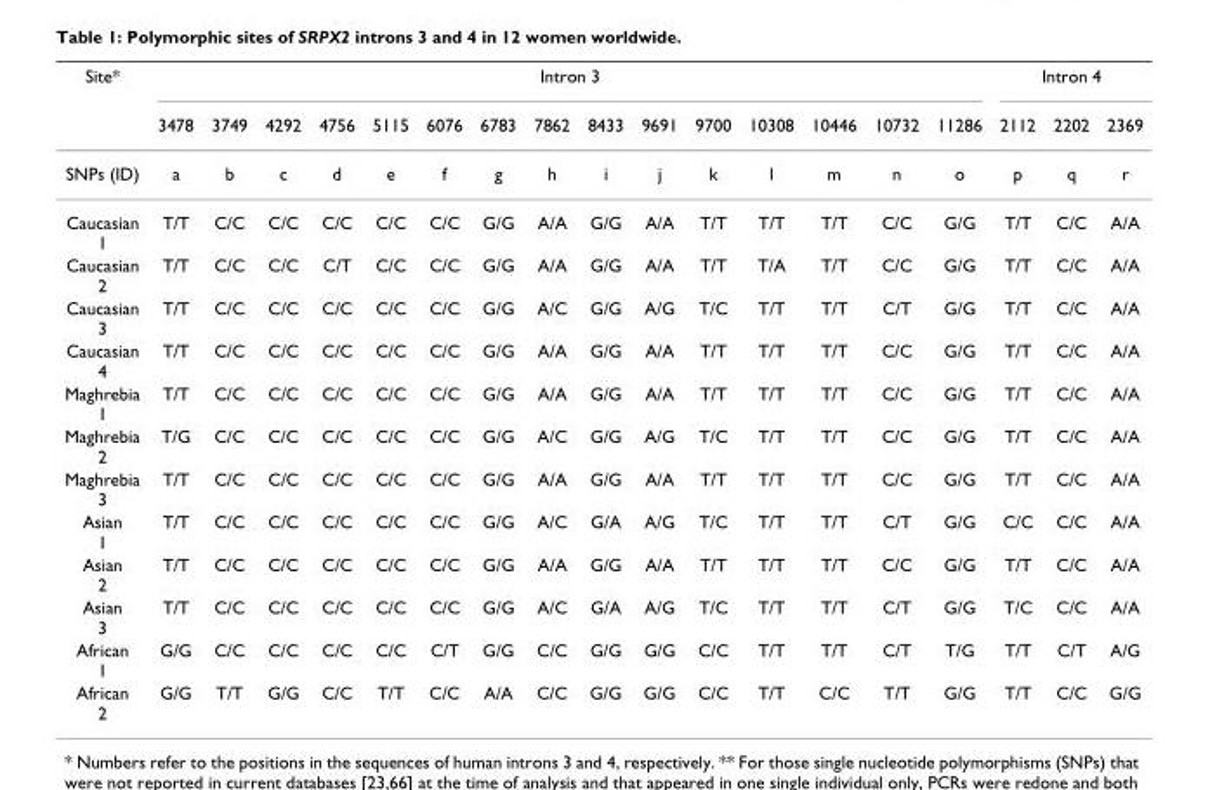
<table><thead><tr><td rowspan="2">Site*</td><td colspan="15">Intron 3</td><td colspan="3">Intron 4</td></tr><tr><td>3478</td><td>3749</td><td>4292</td><td>4756</td><td>5115</td><td>6076</td><td>6783</td><td>7862</td><td>8433</td><td>9691</td><td>9700</td><td>10308</td><td>10446</td><td>10732</td><td>11286</td><td>2112</td><td>2202</td><td>2369</td></tr></thead><tbody><tr><td>SNPs (ID)</td><td>a</td><td>b</td><td>c</td><td>d</td><td>e</td><td>f</td><td>g</td><td>h</td><td>i</td><td>j</td><td>k</td><td>l</td><td>m</td><td>n</td><td>o</td><td>p</td><td>q</td><td>r</td></tr><tr><td>Caucasian 1</td><td>T/T</td><td>C/C</td><td>C/C</td><td>C/C</td><td>C/C</td><td>C/C</td><td>G/G</td><td>A/A</td><td>G/G</td><td>A/A</td><td>T/T</td><td>T/T</td><td>T/T</td><td>C/C</td><td>G/G</td><td>T/T</td><td>C/C</td><td>A/A</td></tr><tr><td>Caucasian 2</td><td>T/T</td><td>C/C</td><td>C/C</td><td>C/T</td><td>C/C</td><td>C/C</td><td>G/G</td><td>A/A</td><td>G/G</td><td>A/A</td><td>T/T</td><td>T/A</td><td>T/T</td><td>C/C</td><td>G/G</td><td>T/T</td><td>C/C</td><td>A/A</td></tr><tr><td>Caucasian 3</td><td>T/T</td><td>C/C</td><td>C/C</td><td>C/C</td><td>C/C</td><td>C/C</td><td>G/G</td><td>A/C</td><td>G/G</td><td>A/G</td><td>T/C</td><td>T/T</td><td>T/T</td><td>C/T</td><td>G/G</td><td>T/T</td><td>C/C</td><td>A/A</td></tr><tr><td>Caucasian 4</td><td>T/T</td><td>C/C</td><td>C/C</td><td>C/C</td><td>C/C</td><td>C/C</td><td>G/G</td><td>A/A</td><td>G/G</td><td>A/A</td><td>T/T</td><td>T/T</td><td>T/T</td><td>C/C</td><td>G/G</td><td>T/T</td><td>C/C</td><td>A/A</td></tr><tr><td>Maghrebia 1</td><td>T/T</td><td>C/C</td><td>C/C</td><td>C/C</td><td>C/C</td><td>C/C</td><td>G/G</td><td>A/A</td><td>G/G</td><td>A/A</td><td>T/T</td><td>T/T</td><td>T/T</td><td>C/C</td><td>G/G</td><td>T/T</td><td>C/C</td><td>A/A</td></tr><tr><td>Maghrebia 2</td><td>T/G</td><td>C/C</td><td>C/C</td><td>C/C</td><td>C/C</td><td>C/C</td><td>G/G</td><td>A/C</td><td>G/G</td><td>A/G</td><td>T/C</td><td>T/T</td><td>T/T</td><td>C/C</td><td>G/G</td><td>T/T</td><td>C/C</td><td>A/A</td></tr><tr><td>Maghrebia 3</td><td>T/T</td><td>C/C</td><td>C/C</td><td>C/C</td><td>C/C</td><td>C/C</td><td>G/G</td><td>A/A</td><td>G/G</td><td>A/A</td><td>T/T</td><td>T/T</td><td>T/T</td><td>C/C</td><td>G/G</td><td>T/T</td><td>C/C</td><td>A/A</td></tr><tr><td>Asian 1</td><td>T/T</td><td>C/C</td><td>C/C</td><td>C/C</td><td>C/C</td><td>C/C</td><td>G/G</td><td>A/C</td><td>G/A</td><td>A/G</td><td>T/C</td><td>T/T</td><td>T/T</td><td>C/T</td><td>G/G</td><td>C/C</td><td>C/C</td><td>A/A</td></tr><tr><td>Asian 2</td><td>T/T</td><td>C/C</td><td>C/C</td><td>C/C</td><td>C/C</td><td>C/C</td><td>G/G</td><td>A/A</td><td>G/G</td><td>A/A</td><td>T/T</td><td>T/T</td><td>T/T</td><td>C/C</td><td>G/G</td><td>T/T</td><td>C/C</td><td>A/A</td></tr><tr><td>Asian 3</td><td>T/T</td><td>C/C</td><td>C/C</td><td>C/C</td><td>C/C</td><td>C/C</td><td>G/G</td><td>A/C</td><td>G/A</td><td>A/G</td><td>T/C</td><td>T/T</td><td>T/T</td><td>C/T</td><td>G/G</td><td>T/C</td><td>C/C</td><td>A/A</td></tr><tr><td>African 1</td><td>G/G</td><td>C/C</td><td>C/C</td><td>C/C</td><td>C/C</td><td>C/T</td><td>G/G</td><td>C/C</td><td>G/G</td><td>G/G</td><td>C/C</td><td>T/T</td><td>T/T</td><td>C/T</td><td>T/G</td><td>T/T</td><td>C/T</td><td>A/G</td></tr><tr><td>African 2</td><td>G/G</td><td>T/T</td><td>G/G</td><td>C/C</td><td>T/T</td><td>C/C</td><td>A/A</td><td>C/C</td><td>G/G</td><td>G/G</td><td>C/C</td><td>T/T</td><td>C/C</td><td>T/T</td><td>G/G</td><td>T/T</td><td>C/C</td><td>G/G</td></tr></tbody></table>